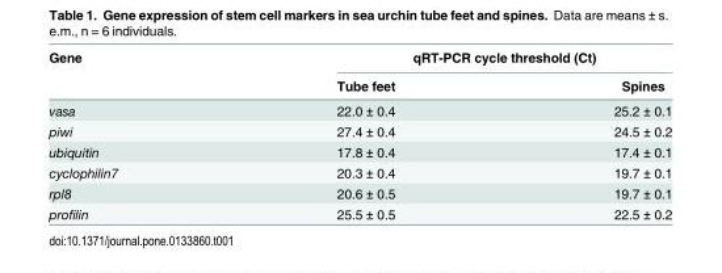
<table><thead><tr><td rowspan="2">Gene</td><td colspan="2">qRT-PCR cycle threshold (Ct)</td></tr><tr><td>Tube feet</td><td>Spines</td></tr></thead><tbody><tr><td>vasa</td><td>22.0 ± 0.4</td><td>25.2 ± 0.1</td></tr><tr><td>piwi</td><td>27.4 ± 0.4</td><td>24.5 ± 0.2</td></tr><tr><td>ubiquitin</td><td>17.8 ± 0.4</td><td>17.4 ± 0.1</td></tr><tr><td>cyclophilin7</td><td>20.3 ± 0.4</td><td>19.7 ± 0.1</td></tr><tr><td>rpl8</td><td>20.6 ± 0.5</td><td>19.7 ± 0.1</td></tr><tr><td>profilin</td><td>25.5 ± 0.5</td><td>22.5 ± 0.2</td></tr></tbody></table>